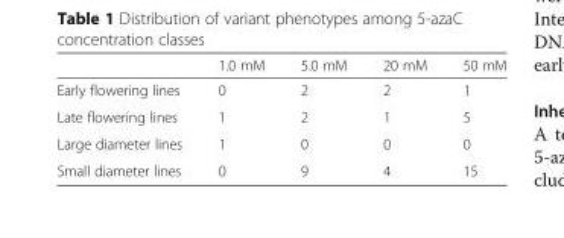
<table><thead><tr><td></td><td>1.0 mM</td><td>5.0 mM</td><td>20 mM</td><td>50 mM</td></tr></thead><tbody><tr><td>Early flowering lines</td><td>0</td><td>2</td><td>2</td><td>1</td></tr><tr><td>Late flowering lines</td><td>1</td><td>2</td><td>1</td><td>5</td></tr><tr><td>Large diameter lines</td><td>1</td><td>0</td><td>0</td><td>0</td></tr><tr><td>Small diameter lines</td><td>0</td><td>9</td><td>4</td><td>15</td></tr></tbody></table>